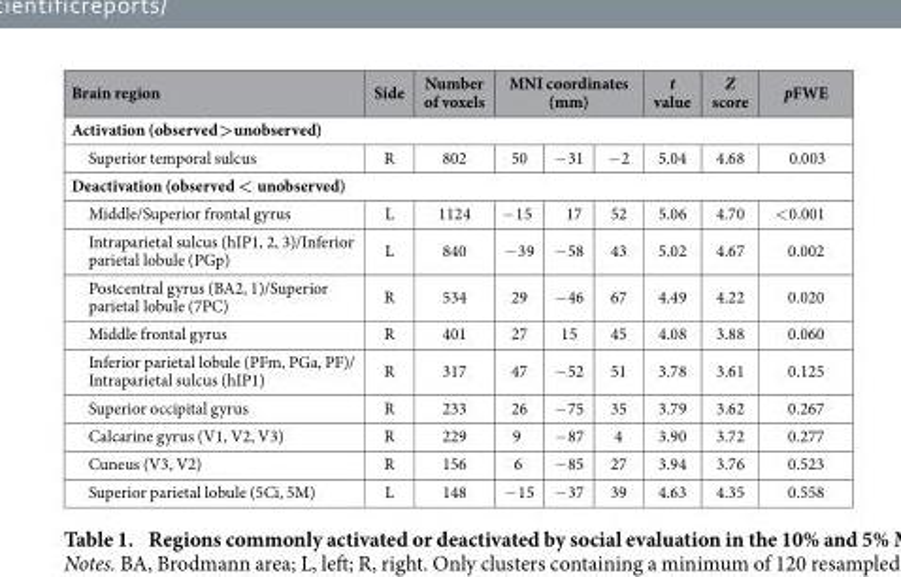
<table><thead><tr><td>Brain region</td><td>Side</td><td>Number of voxels</td><td colspan="3">MNI coordinates (mm)</td><td>t value</td><td>Z score</td><td>pFWE</td></tr><tr><td colspan="9">Activation (observed&gt; unobserved)</td></tr><tr><td>Superior temporal sulcus</td><td>R</td><td>802</td><td>50</td><td>− 31</td><td>− 2</td><td>5.04</td><td>4.68</td><td>0.003</td></tr></thead><tbody><tr><td colspan="9">Deactivation (observed &lt; unobserved)</td></tr><tr><td>Middle/Superior frontal gyrus</td><td>L</td><td>1124</td><td>− 15</td><td>17</td><td>52</td><td>5.06</td><td>4.70</td><td>&lt; 0.001</td></tr><tr><td>Intraparietal sulcus (hIP1, 2, 3)/Inferior parietal lobule (PGp)</td><td>L</td><td>840</td><td>− 39</td><td>− 58</td><td>43</td><td>5.02</td><td>4.67</td><td>0.002</td></tr><tr><td>Postcentral gyrus (BA2, 1)/Superior parietal lobule (7PC)</td><td>R</td><td>534</td><td>29</td><td>− 46</td><td>67</td><td>4.49</td><td>4.22</td><td>0.020</td></tr><tr><td>Middle frontal gyrus</td><td>R</td><td>401</td><td>27</td><td>15</td><td>45</td><td>4.08</td><td>3.88</td><td>0.060</td></tr><tr><td>Inferior parietal lobule (PFm, PGa, PF)/ Intraparietal sulcus (hIP1)</td><td>R</td><td>317</td><td>47</td><td>− 52</td><td>51</td><td>3.78</td><td>3.61</td><td>0.125</td></tr><tr><td>Superior occipital gyrus</td><td>R</td><td>233</td><td>26</td><td>− 75</td><td>35</td><td>3.79</td><td>3.62</td><td>0.267</td></tr><tr><td>Calcarine gyrus (V1, V2, V3)</td><td>R</td><td>229</td><td>9</td><td>− 87</td><td>4</td><td>3.90</td><td>3.72</td><td>0.277</td></tr><tr><td>Cuneus (V3, V2)</td><td>R</td><td>156</td><td>6</td><td>− 85</td><td>27</td><td>3.94</td><td>3.76</td><td>0.523</td></tr><tr><td>Superior parietal lobule (5Ci, 5M)</td><td>L</td><td>148</td><td>− 15</td><td>− 37</td><td>39</td><td>4.63</td><td>4.35</td><td>0.558</td></tr></tbody></table>